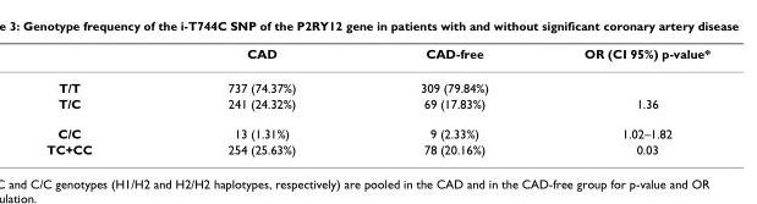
<table><thead><tr><td></td><td>CAD</td><td>CAD-free</td><td>OR (CI 95%) p-value*</td></tr></thead><tbody><tr><td>T/T</td><td>737 (74.37%)</td><td>309 (79.84%)</td><td></td></tr><tr><td>T/C</td><td>241 (24.32%)</td><td>69 (17.83%)</td><td>1.36</td></tr><tr><td>C/C</td><td>13 (1.31%)</td><td>9 (2.33%)</td><td>1.02–1.82</td></tr><tr><td>TC+CC</td><td>254 (25.63%)</td><td>78 (20.16%)</td><td>0.03</td></tr></tbody></table>